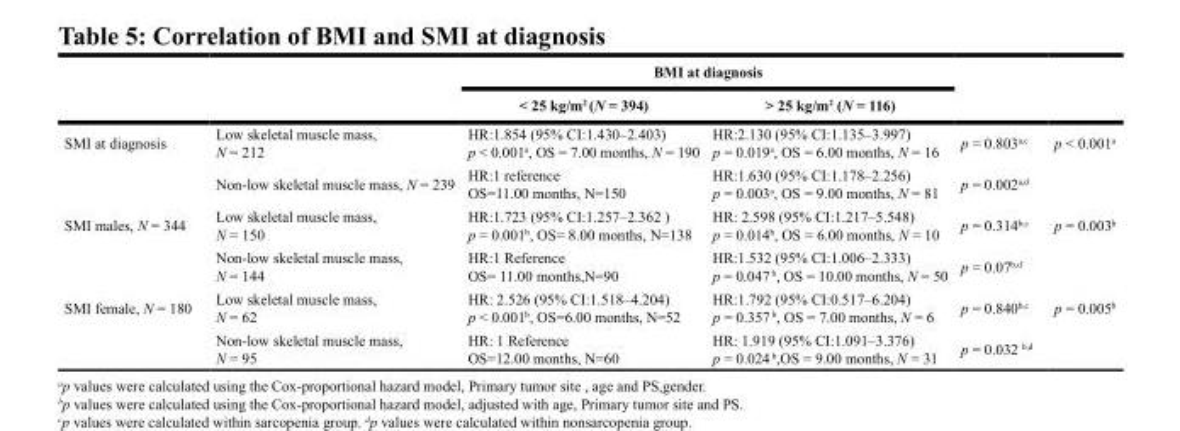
<table><thead><tr><td rowspan="2"></td><td rowspan="2"></td><td colspan="2">BMI at diagnosis</td><td rowspan="2"></td><td rowspan="2"></td></tr><tr><td>&lt; 25 kg/m<sup>2</sup> (N = 394)</td><td>&gt; 25 kg/m<sup>2</sup> (N = 116)</td></tr></thead><tbody><tr><td rowspan="2">SMI at diagnosis</td><td>Low skeletal muscle mass, N = 212</td><td>HR:1.854 (95% CI:1.430–2.403) p &lt; 0.001<sup>a</sup>, OS = 7.00 months, N = 190</td><td>HR:2.130 (95% CI:1.135–3.997) p = 0.019<sup>a</sup>, OS = 6.00 months, N = 16</td><td>p = 0.803<sup>a,c</sup></td><td>p &lt; 0.001<sup>a</sup></td></tr><tr><td>Non-low skeletal muscle mass, N = 239</td><td>HR:1 reference OS=11.00 months, N=150</td><td>HR:1.630 (95% CI:1.178–2.256) p = 0.003<sup>a</sup>, OS = 9.00 months, N = 81</td><td>p = 0.002<sup>a,d</sup></td><td></td></tr><tr><td rowspan="2">SMI males, N = 344</td><td>Low skeletal muscle mass, N = 150</td><td>HR:1.723 (95% CI:1.257–2.362 ) p = 0.001<sup>b</sup>, OS= 8.00 months, N=138</td><td>HR: 2.598 (95% CI:1.217–5.548) p = 0.014<sup>b</sup>, OS = 6.00 months, N = 10</td><td>p = 0.314<sup>b,c</sup></td><td>p = 0.003<sup>b</sup></td></tr><tr><td>Non-low skeletal muscle mass, N = 144</td><td>HR:1 Reference OS= 11.00 months,N=90</td><td>HR:1.532 (95% CI:1.006–2.333) p = 0.047 <sup>b</sup>, OS = 10.00 months, N = 50</td><td>p = 0.07<sup>b,d</sup></td><td></td></tr><tr><td rowspan="2">SMI female, N = 180</td><td>Low skeletal muscle mass, N = 62</td><td>HR: 2.526 (95% CI:1.518–4.204) p &lt; 0.001<sup>b</sup>, OS=6.00 months, N=52</td><td>HR:1.792 (95% CI:0.517–6.204) p = 0.357 <sup>b</sup>, OS = 7.00 months, N = 6</td><td>p = 0.840<sup>b,c</sup></td><td>p = 0.005<sup>b</sup></td></tr><tr><td>Non-low skeletal muscle mass, N = 95</td><td>HR: 1 Reference OS=12.00 months, N=60</td><td>HR: 1.919 (95% CI:1.091–3.376) p = 0.024 <sup>b</sup>,OS = 9.00 months, N = 31</td><td>p = 0.032 <sup>b,d</sup></td><td></td></tr></tbody></table>